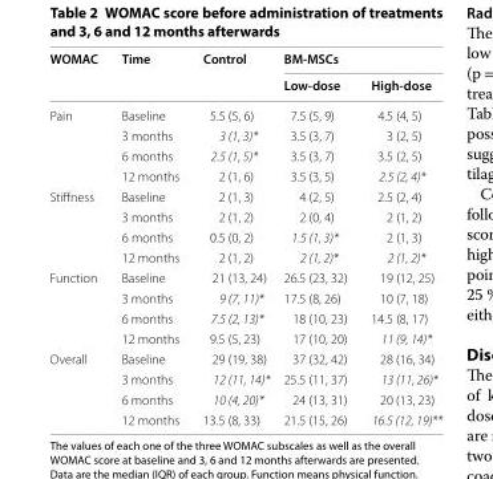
<table><thead><tr><td rowspan="2">WOMAC</td><td rowspan="2">Time</td><td rowspan="2">Control</td><td colspan="2">BM-MSCs</td></tr><tr><td>Low-dose</td><td>High-dose</td></tr></thead><tbody><tr><td rowspan="4">Pain</td><td>Baseline</td><td>5.5 (5, 6)</td><td>7.5 (5, 9)</td><td>4.5 (4, 5)</td></tr><tr><td>3 months</td><td>3 (1, 3)*</td><td>3.5 (3, 7)</td><td>3 (2, 5)</td></tr><tr><td>6 months</td><td>2.5 (1, 5)*</td><td>3.5 (3, 7)</td><td>3.5 (2, 5)</td></tr><tr><td>12 months</td><td>2 (1, 6)</td><td>3.5 (3, 5)</td><td>2.5 (2, 4)*</td></tr><tr><td rowspan="4">Stiffness</td><td>Baseline</td><td>2 (1, 3)</td><td>4 (2, 5)</td><td>2.5 (2, 4)</td></tr><tr><td>3 months</td><td>2 (1, 2)</td><td>2 (0, 4)</td><td>2 (1, 2)</td></tr><tr><td>6 months</td><td>0.5 (0, 2)</td><td>1.5 (1, 3)*</td><td>2 (1, 3)</td></tr><tr><td>12 months</td><td>2 (1, 2)</td><td>2 (1, 2)*</td><td>2 (1, 2)*</td></tr><tr><td rowspan="4">Function</td><td>Baseline</td><td>21 (13, 24)</td><td>26.5 (23, 32)</td><td>19 (12, 25)</td></tr><tr><td>3 months</td><td>9 (7, 11)*</td><td>17.5 (8, 26)</td><td>10 (7, 18)</td></tr><tr><td>6 months</td><td>7.5 (2, 13)*</td><td>18 (10, 23)</td><td>14.5 (8, 17)</td></tr><tr><td>12 months</td><td>9.5 (5, 23)</td><td>17 (10, 20)</td><td>11 (9, 14)*</td></tr><tr><td rowspan="4">Overall</td><td>Baseline</td><td>29 (19, 38)</td><td>37 (32, 42)</td><td>28 (16, 34)</td></tr><tr><td>3 months</td><td>12 (11, 14)*</td><td>25.5 (11, 37)</td><td>13 (11, 26)*</td></tr><tr><td>6 months</td><td>10 (4, 20)*</td><td>24 (13, 31)</td><td>20 (13, 23)</td></tr><tr><td>12 months</td><td>13.5 (8, 33)</td><td>21.5 (15, 26)</td><td>16.5 (12, 19)**</td></tr></tbody></table>